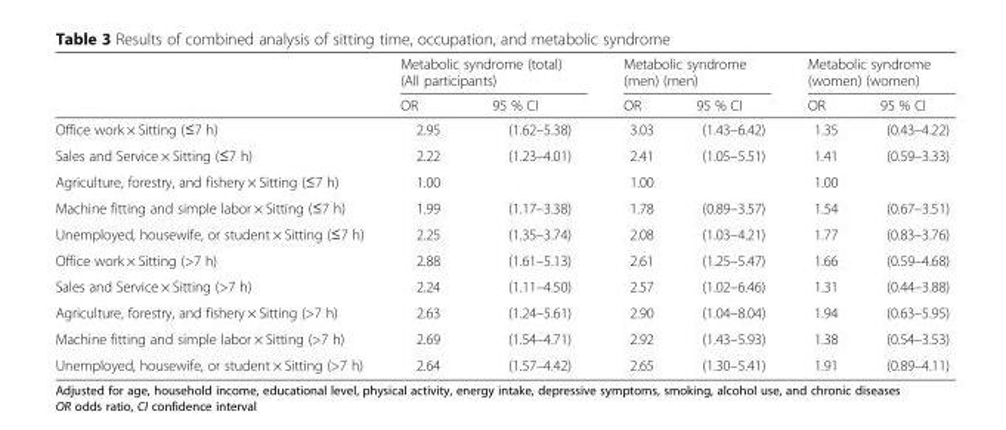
<table><thead><tr><td rowspan="2"></td><td colspan="2">Metabolic syndrome (total) (All participants)</td><td colspan="2">Metabolic syndrome (men) (men)</td><td colspan="2">Metabolic syndrome (women) (women)</td></tr><tr><td>OR</td><td>95 % CI</td><td>OR</td><td>95 % CI</td><td>OR</td><td>95 % CI</td></tr></thead><tbody><tr><td>Office work × Sitting (≤7 h)</td><td>2.95</td><td>(1.62–5.38)</td><td>3.03</td><td>(1.43–6.42)</td><td>1.35</td><td>(0.43–4.22)</td></tr><tr><td>Sales and Service × Sitting (≤7 h)</td><td>2.22</td><td>(1.23–4.01)</td><td>2.41</td><td>(1.05–5.51)</td><td>1.41</td><td>(0.59–3.33)</td></tr><tr><td>Agriculture, forestry, and fishery × Sitting (≤7 h)</td><td>1.00</td><td></td><td>1.00</td><td></td><td>1.00</td><td></td></tr><tr><td>Machine fitting and simple labor × Sitting (≤7 h)</td><td>1.99</td><td>(1.17–3.38)</td><td>1.78</td><td>(0.89–3.57)</td><td>1.54</td><td>(0.67–3.51)</td></tr><tr><td>Unemployed, housewife, or student × Sitting (≤7 h)</td><td>2.25</td><td>(1.35–3.74)</td><td>2.08</td><td>(1.03–4.21)</td><td>1.77</td><td>(0.83–3.76)</td></tr><tr><td>Office work × Sitting (&gt;7 h)</td><td>2.88</td><td>(1.61–5.13)</td><td>2.61</td><td>(1.25–5.47)</td><td>1.66</td><td>(0.59–4.68)</td></tr><tr><td>Sales and Service × Sitting (&gt;7 h)</td><td>2.24</td><td>(1.11–4.50)</td><td>2.57</td><td>(1.02–6.46)</td><td>1.31</td><td>(0.44–3.88)</td></tr><tr><td>Agriculture, forestry, and fishery × Sitting (&gt;7 h)</td><td>2.63</td><td>(1.24–5.61)</td><td>2.90</td><td>(1.04–8.04)</td><td>1.94</td><td>(0.63–5.95)</td></tr><tr><td>Machine fitting and simple labor × Sitting (&gt;7 h)</td><td>2.69</td><td>(1.54–4.71)</td><td>2.92</td><td>(1.43–5.93)</td><td>1.38</td><td>(0.54–3.53)</td></tr><tr><td>Unemployed, housewife, or student × Sitting (&gt;7 h)</td><td>2.64</td><td>(1.57–4.42)</td><td>2.65</td><td>(1.30–5.41)</td><td>1.91</td><td>(0.89–4.11)</td></tr></tbody></table>